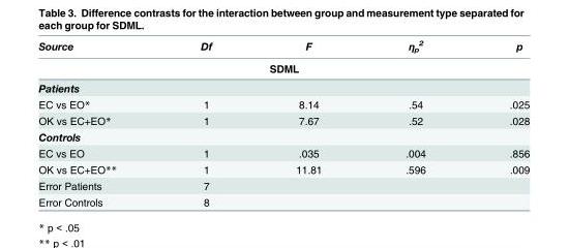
<table><thead><tr><td>Source</td><td>Df</td><td>F</td><td>η<sub>p</sub> <sup>2</sup></td><td>p</td></tr><tr><td colspan="5">SDML</td></tr></thead><tbody><tr><td colspan="5">Patients</td></tr><tr><td>EC vs EO*</td><td>1</td><td>8.14</td><td>.54</td><td>.025</td></tr><tr><td>OK vs EC+EO*</td><td>1</td><td>7.67</td><td>.52</td><td>.028</td></tr><tr><td colspan="5">Controls</td></tr><tr><td>EC vs EO</td><td>1</td><td>.035</td><td>.004</td><td>.856</td></tr><tr><td>OK vs EC+EO**</td><td>1</td><td>11.81</td><td>.596</td><td>.009</td></tr><tr><td>Error Patients</td><td>7</td><td></td><td></td><td></td></tr><tr><td>Error Controls</td><td>8</td><td></td><td></td><td></td></tr></tbody></table>